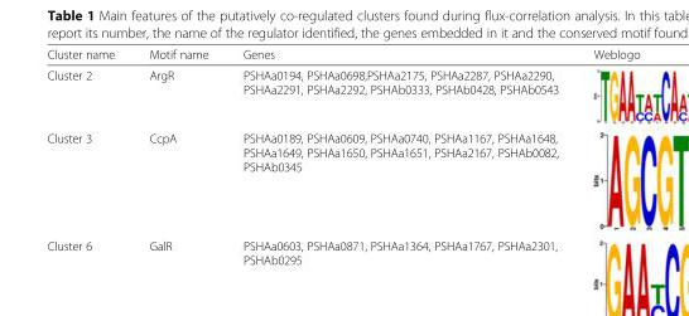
<table><thead><tr><td>Cluster name</td><td>Motif name</td><td>Genes</td><td>Weblogo</td></tr></thead><tbody><tr><td>Cluster 2</td><td>ArgR</td><td>PSHAa0194, PSHAa0698,PSHAa2175, PSHAa2287, PSHAa2290, PSHAa2291, PSHAa2292, PSHAb0333, PSHAb0428, PSHAb0543</td><td></td></tr><tr><td>Cluster 3</td><td>CcpA</td><td>PSHAa0189, PSHAa0609, PSHAa0740, PSHAa1167, PSHAa1648, PSHAa1649, PSHAa1650, PSHAa1651, PSHAa2167, PSHAb0082, PSHAb0345</td><td></td></tr><tr><td>Cluster 6</td><td>GalR</td><td>PSHAa0603, PSHAa0871, PSHAa1364, PSHAa1767, PSHAa2301, PSHAb0295</td><td></td></tr></tbody></table>